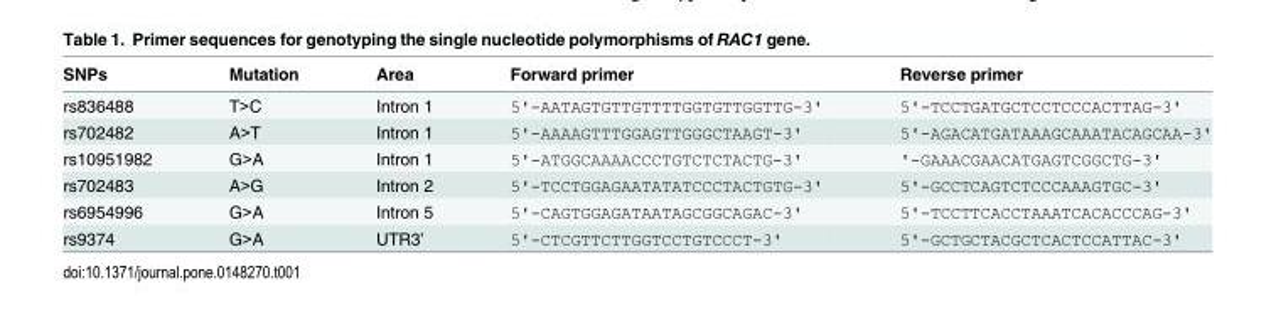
<table><thead><tr><td>SNPs</td><td>Mutation</td><td>Area</td><td>Forward primer</td><td>Reverse primer</td></tr></thead><tbody><tr><td>rs836488</td><td>T&gt;C</td><td>Intron 1</td><td>5&#x27;-AATAGTGTTGTTTTGGTGTTGGTTG-3&#x27;</td><td>5&#x27;-TCCTGATGCTCCTCCCACTTAG-3&#x27;</td></tr><tr><td>rs702482</td><td>A&gt;T</td><td>Intron 1</td><td>5&#x27;-AAAAGTTTGGAGTTGGGCTAAGT-3&#x27;</td><td>5&#x27;-AGACATGATAAAGCAAATACAGCAA-3&#x27;</td></tr><tr><td>rs10951982</td><td>G&gt;A</td><td>Intron 1</td><td>5&#x27;-ATGGCAAAACCCTGTCTCTACTG-3&#x27;</td><td>&#x27;-GAAACGAACATGAGTCGGCTG-3&#x27;</td></tr><tr><td>rs702483</td><td>A&gt;G</td><td>Intron 2</td><td>5&#x27;-TCCTGGAGAATATATCCCTACTGTG-3&#x27;</td><td>5&#x27;-GCCTCAGTCTCCCAAAGTGC-3&#x27;</td></tr><tr><td>rs6954996</td><td>G&gt;A</td><td>Intron 5</td><td>5&#x27;-CAGTGGAGATAATAGCGGCAGAC-3&#x27;</td><td>5&#x27;-TCCTTCACCTAAATCACACCCAG-3&#x27;</td></tr><tr><td>rs9374</td><td>G&gt;A</td><td>UTR3’</td><td>5&#x27;-CTCGTTCTTGGTCCTGTCCCT-3&#x27;</td><td>5&#x27;-GCTGCTACGCTCACTCCATTAC-3&#x27;</td></tr></tbody></table>